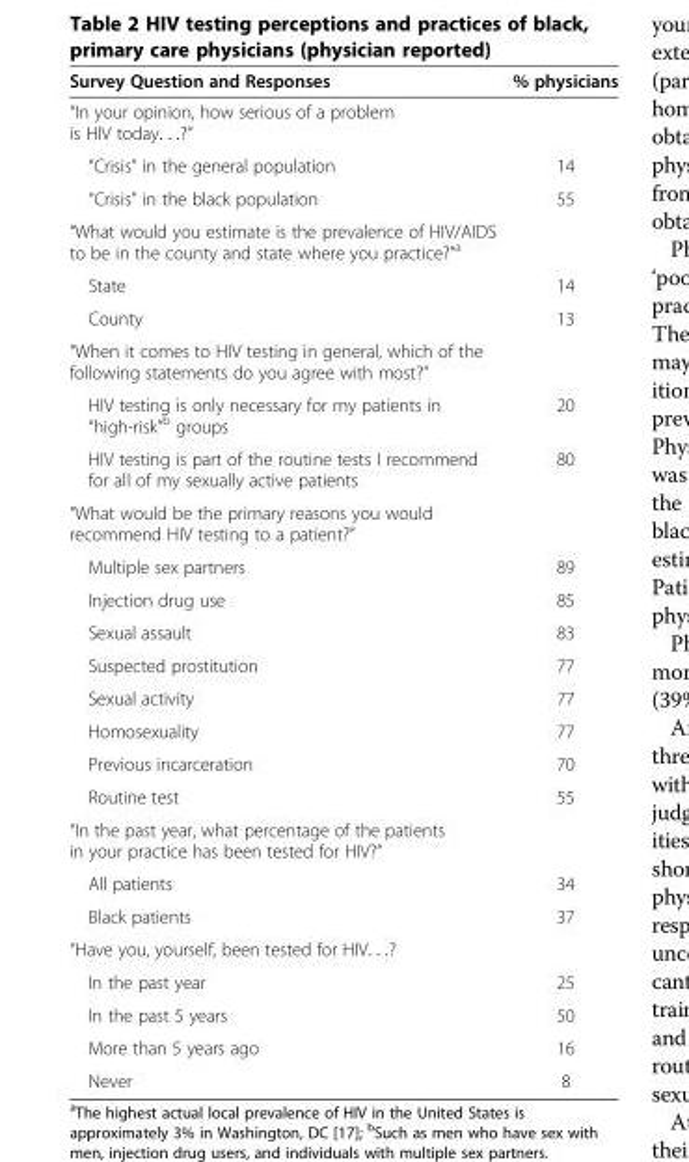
<table><thead><tr><td>Survey Question and Responses</td><td>% physicians</td></tr></thead><tbody><tr><td colspan="2">“In your opinion, how serious of a problem is HIV today. . .?”</td></tr><tr><td>“Crisis” in the general population</td><td>14</td></tr><tr><td>“Crisis” in the black population</td><td>55</td></tr><tr><td colspan="2">“What would you estimate is the prevalence of HIV/AIDS to be in the county and state where you practice?”<sup>a</sup></td></tr><tr><td>State</td><td>14</td></tr><tr><td>County</td><td>13</td></tr><tr><td colspan="2">“When it comes to HIV testing in general, which of the following statements do you agree with most?”</td></tr><tr><td>HIV testing is only necessary for my patients in “high-risk”<sup>b</sup> groups</td><td>20</td></tr><tr><td>HIV testing is part of the routine tests I recommend for all of my sexually active patients</td><td>80</td></tr><tr><td colspan="2">“What would be the primary reasons you would recommend HIV testing to a patient?”</td></tr><tr><td>Multiple sex partners</td><td>89</td></tr><tr><td>Injection drug use</td><td>85</td></tr><tr><td>Sexual assault</td><td>83</td></tr><tr><td>Suspected prostitution</td><td>77</td></tr><tr><td>Sexual activity</td><td>77</td></tr><tr><td>Homosexuality</td><td>77</td></tr><tr><td>Previous incarceration</td><td>70</td></tr><tr><td>Routine test</td><td>55</td></tr><tr><td colspan="2">“In the past year, what percentage of the patients in your practice has been tested for HIV?”</td></tr><tr><td>All patients</td><td>34</td></tr><tr><td>Black patients</td><td>37</td></tr><tr><td colspan="2">“Have you, yourself, been tested for HIV. . .?</td></tr><tr><td>In the past year</td><td>25</td></tr><tr><td>In the past 5 years</td><td>50</td></tr><tr><td>More than 5 years ago</td><td>16</td></tr><tr><td>Never</td><td>8</td></tr></tbody></table>